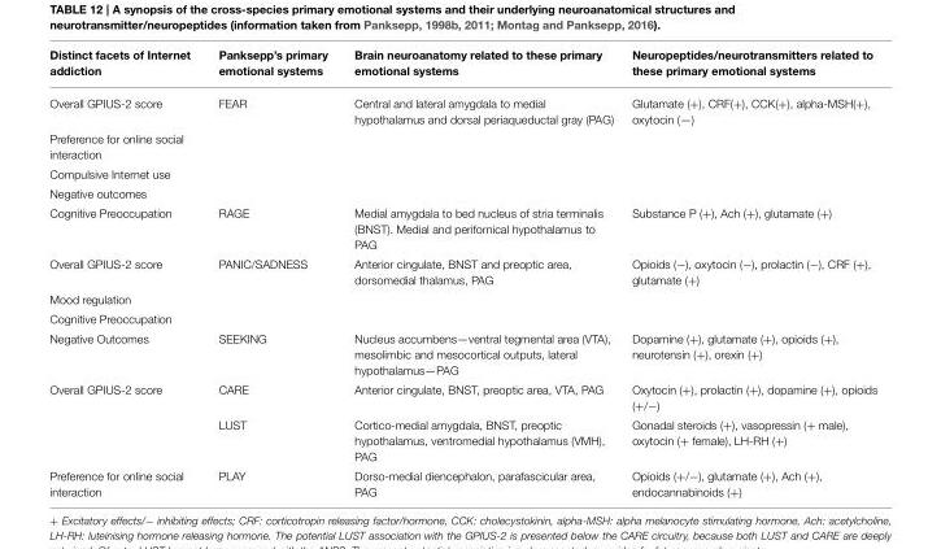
<table><thead><tr><td>Distinct facets of Internet addiction</td><td>Panksepp’s primary emotional systems</td><td>Brain neuroanatomy related to these primary emotional systems</td><td>Neuropeptides/neurotransmitters related to these primary emotional systems</td></tr></thead><tbody><tr><td>Overall GPIUS-2 score</td><td>FEAR</td><td>Central and lateral amygdala to medial hypothalamus and dorsal periaqueductal gray (PAG)</td><td>Glutamate (+), CRF(+), CCK(+), alpha-MSH(+), oxytocin (—)</td></tr><tr><td colspan="4">Preference for online social interaction</td></tr><tr><td colspan="4">Compulsive Internet use</td></tr><tr><td colspan="4">Negative outcomes</td></tr><tr><td>Cognitive Preoccupation</td><td>RAGE</td><td>Medial amygdala to bed nucleus of stria terminalis (BNST). Medial and perifornical hypothalamus to PAG</td><td>Substance P (+), Ach (+), glutamate (+)</td></tr><tr><td>Overall GPIUS-2 score</td><td>PANIC/SADNESS</td><td>Anterior cingulate, BNST and preoptic area, dorsomedial thalamus, PAG</td><td>Opioids (−), oxytocin (−), prolactin (−), CRF (+), glutamate (+)</td></tr><tr><td colspan="4">Mood regulation</td></tr><tr><td colspan="4">Cognitive Preoccupation</td></tr><tr><td>Negative Outcomes</td><td>SEEKING</td><td>Nucleus accumbens—ventral tegmental area (VTA), mesolimbic and mesocortical outputs, lateral hypothalamus—PAG</td><td>Dopamine (+), glutamate (+), opioids (+), neurotensin (+), orexin (+)</td></tr><tr><td rowspan="2">Overall GPIUS-2 score</td><td>CARE</td><td>Anterior cingulate, BNST, preoptic area, VTA, PAG</td><td>Oxytocin (+), prolactin (+), dopamine (+), opioids (+/−)</td></tr><tr><td>LUST</td><td>Cortico-medial amygdala, BNST, preoptic hypothalamus, ventromedial hypothalamus (VMH), PAG</td><td>Gonadal steroids (+), vasopressin (+ male), oxytocin (+ female), LH-RH (+)</td></tr><tr><td>Preference for online social interaction</td><td>PLAY</td><td>Dorso-medial diencephalon, parafascicular area, PAG</td><td>Opioids (+/−), glutamate (+), Ach (+), endocannabinoids (+)</td></tr></tbody></table>